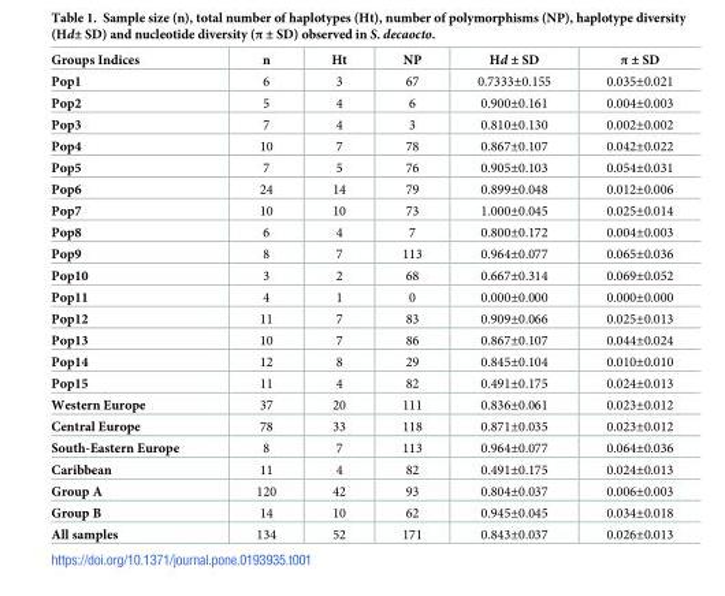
<table><thead><tr><td>Groups Indices</td><td>n</td><td>Ht</td><td>NP</td><td>Hd ± SD</td><td>π ± SD</td></tr></thead><tbody><tr><td>Pop1</td><td>6</td><td>3</td><td>67</td><td>0.7333±0.155</td><td>0.035±0.021</td></tr><tr><td>Pop2</td><td>5</td><td>4</td><td>6</td><td>0.900±0.161</td><td>0.004±0.003</td></tr><tr><td>Pop3</td><td>7</td><td>4</td><td>3</td><td>0.810±0.130</td><td>0.002±0.002</td></tr><tr><td>Pop4</td><td>10</td><td>7</td><td>78</td><td>0.867±0.107</td><td>0.042±0.022</td></tr><tr><td>Pop5</td><td>7</td><td>5</td><td>76</td><td>0.905±0.103</td><td>0.054±0.031</td></tr><tr><td>Pop6</td><td>24</td><td>14</td><td>79</td><td>0.899±0.048</td><td>0.012±0.006</td></tr><tr><td>Pop7</td><td>10</td><td>10</td><td>73</td><td>1.000±0.045</td><td>0.025±0.014</td></tr><tr><td>Pop8</td><td>6</td><td>4</td><td>7</td><td>0.800±0.172</td><td>0.004±0.003</td></tr><tr><td>Pop9</td><td>8</td><td>7</td><td>113</td><td>0.964±0.077</td><td>0.065±0.036</td></tr><tr><td>Pop10</td><td>3</td><td>2</td><td>68</td><td>0.667±0.314</td><td>0.069±0.052</td></tr><tr><td>Pop11</td><td>4</td><td>1</td><td>0</td><td>0.000±0.000</td><td>0.000±0.000</td></tr><tr><td>Pop12</td><td>11</td><td>7</td><td>83</td><td>0.909±0.066</td><td>0.025±0.013</td></tr><tr><td>Pop13</td><td>10</td><td>7</td><td>86</td><td>0.867±0.107</td><td>0.044±0.024</td></tr><tr><td>Pop14</td><td>12</td><td>8</td><td>29</td><td>0.845±0.104</td><td>0.010±0.010</td></tr><tr><td>Pop15</td><td>11</td><td>4</td><td>82</td><td>0.491±0.175</td><td>0.024±0.013</td></tr><tr><td>Western Europe</td><td>37</td><td>20</td><td>111</td><td>0.836±0.061</td><td>0.023±0.012</td></tr><tr><td>Central Europe</td><td>78</td><td>33</td><td>118</td><td>0.871±0.035</td><td>0.023±0.012</td></tr><tr><td>South-Eastern Europe</td><td>8</td><td>7</td><td>113</td><td>0.964±0.077</td><td>0.064±0.036</td></tr><tr><td>Caribbean</td><td>11</td><td>4</td><td>82</td><td>0.491±0.175</td><td>0.024±0.013</td></tr><tr><td>Group A</td><td>120</td><td>42</td><td>93</td><td>0.804±0.037</td><td>0.006±0.003</td></tr><tr><td>Group B</td><td>14</td><td>10</td><td>62</td><td>0.945±0.045</td><td>0.034±0.018</td></tr><tr><td>All samples</td><td>134</td><td>52</td><td>171</td><td>0.843±0.037</td><td>0.026±0.013</td></tr></tbody></table>